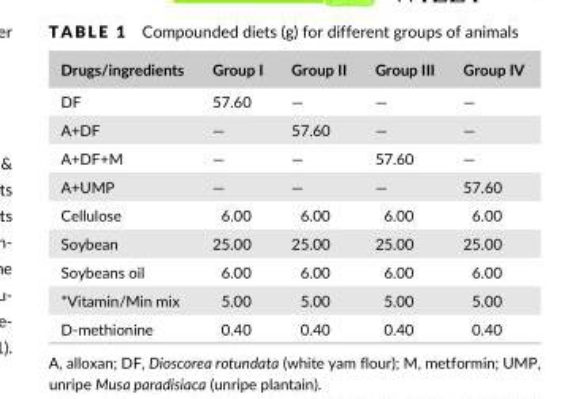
<table><thead><tr><td>Drugs/ingredients</td><td>Group I</td><td>Group II</td><td>Group III</td><td>Group IV</td></tr></thead><tbody><tr><td>DF</td><td>57.60</td><td>—</td><td>—</td><td>—</td></tr><tr><td>A+DF</td><td>—</td><td>57.60</td><td>—</td><td>—</td></tr><tr><td>A+DF+M</td><td>—</td><td>—</td><td>57.60</td><td>—</td></tr><tr><td>A+UMP</td><td>—</td><td>—</td><td>—</td><td>57.60</td></tr><tr><td>Cellulose</td><td>6.00</td><td>6.00</td><td>6.00</td><td>6.00</td></tr><tr><td>Soybean</td><td>25.00</td><td>25.00</td><td>25.00</td><td>25.00</td></tr><tr><td>Soybeans oil</td><td>6.00</td><td>6.00</td><td>6.00</td><td>6.00</td></tr><tr><td>*Vitamin/Min mix</td><td>5.00</td><td>5.00</td><td>5.00</td><td>5.00</td></tr><tr><td>D- methionine</td><td>0.40</td><td>0.40</td><td>0.40</td><td>0.40</td></tr></tbody></table>